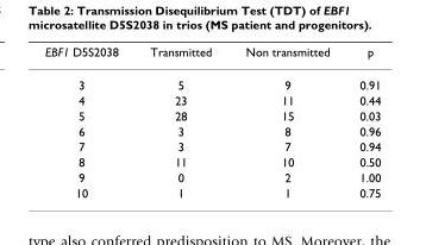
<table><thead><tr><td>EBF1 D5S2038</td><td>Transmitted</td><td>Non transmitted</td><td>p</td></tr></thead><tbody><tr><td>3</td><td>5</td><td>9</td><td>0.91</td></tr><tr><td>4</td><td>23</td><td>11</td><td>0.44</td></tr><tr><td>5</td><td>28</td><td>15</td><td>0.03</td></tr><tr><td>6</td><td>3</td><td>8</td><td>0.96</td></tr><tr><td>7</td><td>3</td><td>7</td><td>0.94</td></tr><tr><td>8</td><td>11</td><td>10</td><td>0.50</td></tr><tr><td>9</td><td>0</td><td>2</td><td>1.00</td></tr><tr><td>10</td><td>1</td><td>1</td><td>0.75</td></tr></tbody></table>